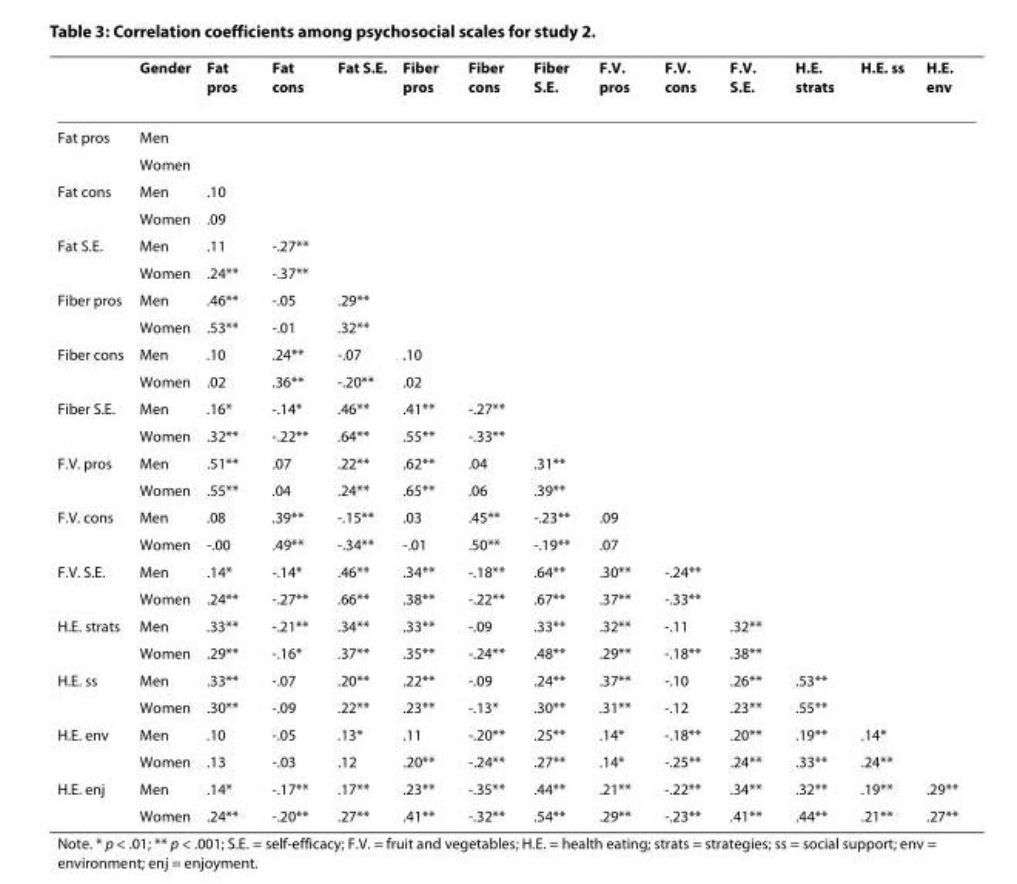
<table><thead><tr><td></td><td>Gender</td><td>Fat pros</td><td>Fat cons</td><td>Fat S.E.</td><td>Fiber pros</td><td>Fiber cons</td><td>Fiber S.E.</td><td>F.V. pros</td><td>F.V. cons</td><td>F.V. S.E.</td><td>H.E. strats</td><td>H.E. ss</td><td>H.E. env</td></tr></thead><tbody><tr><td rowspan="2">Fat pros</td><td>Men</td><td></td><td></td><td></td><td></td><td></td><td></td><td></td><td></td><td></td><td></td><td></td><td></td></tr><tr><td>Women</td><td></td><td></td><td></td><td></td><td></td><td></td><td></td><td></td><td></td><td></td><td></td><td></td></tr><tr><td rowspan="2">Fat cons</td><td>Men</td><td>.10</td><td></td><td></td><td></td><td></td><td></td><td></td><td></td><td></td><td></td><td></td><td></td></tr><tr><td>Women</td><td>.09</td><td></td><td></td><td></td><td></td><td></td><td></td><td></td><td></td><td></td><td></td><td></td></tr><tr><td rowspan="2">Fat S.E.</td><td>Men</td><td>.11</td><td>-.27**</td><td></td><td></td><td></td><td></td><td></td><td></td><td></td><td></td><td></td><td></td></tr><tr><td>Women</td><td>.24**</td><td>-.37**</td><td></td><td></td><td></td><td></td><td></td><td></td><td></td><td></td><td></td><td></td></tr><tr><td rowspan="2">Fiber pros</td><td>Men</td><td>.46**</td><td>-.05</td><td>.29**</td><td></td><td></td><td></td><td></td><td></td><td></td><td></td><td></td><td></td></tr><tr><td>Women</td><td>.53**</td><td>-.01</td><td>.32**</td><td></td><td></td><td></td><td></td><td></td><td></td><td></td><td></td><td></td></tr><tr><td rowspan="2">Fiber cons</td><td>Men</td><td>.10</td><td>.24**</td><td>-.07</td><td>.10</td><td></td><td></td><td></td><td></td><td></td><td></td><td></td><td></td></tr><tr><td>Women</td><td>.02</td><td>.36**</td><td>-.20**</td><td>.02</td><td></td><td></td><td></td><td></td><td></td><td></td><td></td><td></td></tr><tr><td rowspan="2">Fiber S.E.</td><td>Men</td><td>.16*</td><td>-.14*</td><td>.46**</td><td>.41**</td><td>-.27**</td><td></td><td></td><td></td><td></td><td></td><td></td><td></td></tr><tr><td>Women</td><td>.32**</td><td>-.22**</td><td>.64**</td><td>.55**</td><td>-.33**</td><td></td><td></td><td></td><td></td><td></td><td></td><td></td></tr><tr><td rowspan="2">F.V. pros</td><td>Men</td><td>.51**</td><td>.07</td><td>.22**</td><td>.62**</td><td>.04</td><td>.31**</td><td></td><td></td><td></td><td></td><td></td><td></td></tr><tr><td>Women</td><td>.55**</td><td>.04</td><td>.24**</td><td>.65**</td><td>.06</td><td>.39**</td><td></td><td></td><td></td><td></td><td></td><td></td></tr><tr><td rowspan="2">F.V. cons</td><td>Men</td><td>.08</td><td>.39**</td><td>-.15**</td><td>.03</td><td>.45**</td><td>-.23**</td><td>.09</td><td></td><td></td><td></td><td></td><td></td></tr><tr><td>Women</td><td>-.00</td><td>.49**</td><td>-.34**</td><td>-.01</td><td>.50**</td><td>-.19**</td><td>.07</td><td></td><td></td><td></td><td></td><td></td></tr><tr><td rowspan="2">F.V. S.E.</td><td>Men</td><td>.14*</td><td>-.14*</td><td>.46**</td><td>.34**</td><td>-.18**</td><td>.64**</td><td>.30**</td><td>-.24**</td><td></td><td></td><td></td><td></td></tr><tr><td>Women</td><td>.24**</td><td>-.27**</td><td>.66**</td><td>.38**</td><td>-.22**</td><td>.67**</td><td>.37**</td><td>-.33**</td><td></td><td></td><td></td><td></td></tr><tr><td rowspan="2">H.E. strats</td><td>Men</td><td>.33**</td><td>-.21**</td><td>.34**</td><td>.33**</td><td>-.09</td><td>.33**</td><td>.32**</td><td>-.11</td><td>.32**</td><td></td><td></td><td></td></tr><tr><td>Women</td><td>.29**</td><td>-.16*</td><td>.37**</td><td>.35**</td><td>-.24**</td><td>.48**</td><td>.29**</td><td>-.18**</td><td>.38**</td><td></td><td></td><td></td></tr><tr><td rowspan="2">H.E. ss</td><td>Men</td><td>.33**</td><td>-.07</td><td>.20**</td><td>.22**</td><td>-.09</td><td>.24**</td><td>.37**</td><td>-.10</td><td>.26**</td><td>.53**</td><td></td><td></td></tr><tr><td>Women</td><td>.30**</td><td>-.09</td><td>.22**</td><td>.23**</td><td>-.13*</td><td>.30**</td><td>.31**</td><td>-.12</td><td>.23**</td><td>.55**</td><td></td><td></td></tr><tr><td rowspan="2">H.E. env</td><td>Men</td><td>.10</td><td>-.05</td><td>.13*</td><td>.11</td><td>-.20**</td><td>.25**</td><td>.14*</td><td>-.18**</td><td>.20**</td><td>.19**</td><td>.14*</td><td></td></tr><tr><td>Women</td><td>.13</td><td>-.03</td><td>.12</td><td>.20**</td><td>-.24**</td><td>.27**</td><td>.14*</td><td>-.25**</td><td>.24**</td><td>.33**</td><td>.24**</td><td></td></tr><tr><td rowspan="2">H.E. enj</td><td>Men</td><td>.14*</td><td>-.17**</td><td>.17**</td><td>.23**</td><td>-.35**</td><td>.44**</td><td>.21**</td><td>-.22**</td><td>.34**</td><td>.32**</td><td>.19**</td><td>.29**</td></tr><tr><td>Women</td><td>.24**</td><td>-.20**</td><td>.27**</td><td>.41**</td><td>-.32**</td><td>.54**</td><td>.29**</td><td>-.23**</td><td>.41**</td><td>.44**</td><td>.21**</td><td>.27**</td></tr></tbody></table>